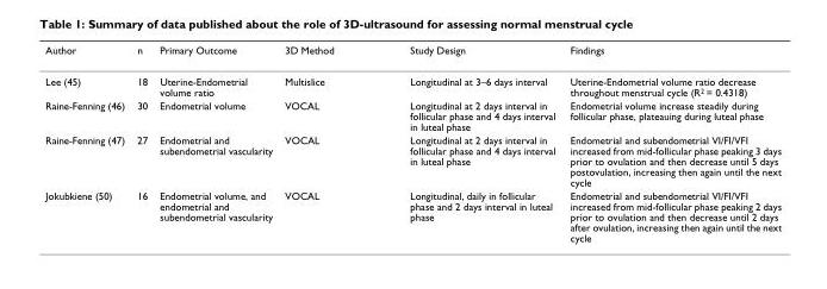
<table><thead><tr><td>Author</td><td>n</td><td>Primary Outcome</td><td>3D Method</td><td>Study Design</td><td>Findings</td></tr></thead><tbody><tr><td>Lee (45)</td><td>18</td><td>Uterine-Endometrial volume ratio</td><td>Multislice</td><td>Longitudinal at 3–6 days interval</td><td>Uterine-Endometrial volume ratio decrease throughout menstrual cycle (R<sup>2</sup> = 0.4318)</td></tr><tr><td>Raine-Fenning (46)</td><td>30</td><td>Endometrial volume</td><td>VOCAL</td><td>Longitudinal at 2 days interval in follicular phase and 4 days interval in luteal phase</td><td>Endometrial volume increase steadily during follicular phase, plateauing during luteal phase</td></tr><tr><td>Raine-Fenning (47)</td><td>27</td><td>Endometrial and subendometrial vascularity</td><td>VOCAL</td><td>Longitudinal at 2 days interval in follicular phase and 4 days interval in luteal phase</td><td>Endometrial and subendometrial VI/FI/VFI increased from mid-follicular phase peaking 3 days prior to ovulation and then decrease until 5 days postovulation, increasing then again until the next cycle</td></tr><tr><td>Jokubkiene (50)</td><td>16</td><td>Endometrial volume, and endometrial and subendometrial vascularity</td><td>VOCAL</td><td>Longitudinal, daily in follicular phase and 2 days interval in luteal phase</td><td>Endometrial and subendometrial VI/FI/VFI increased from mid-follicular phase peaking 2 days prior to ovulation and then decrease until 2 days after ovulation, increasing then again until the next cycle</td></tr></tbody></table>